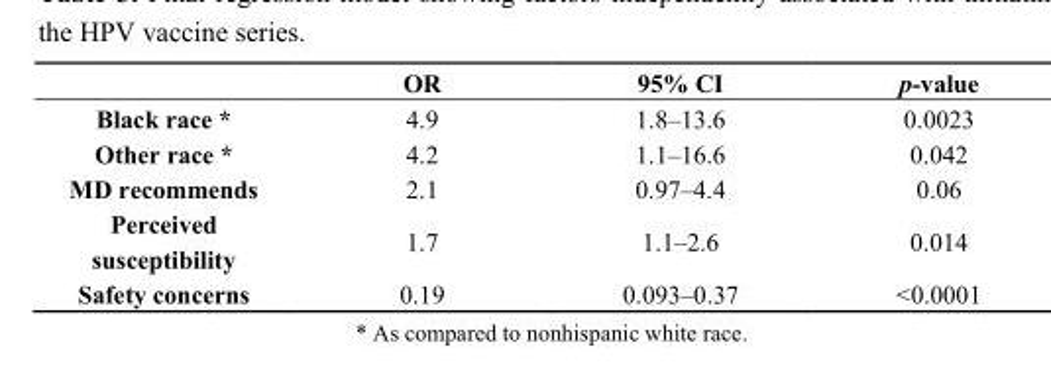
<table><thead><tr><td></td><td>OR</td><td>95% CI</td><td>p-value</td></tr></thead><tbody><tr><td>Black race *</td><td>4.9</td><td>1.8–13.6</td><td>0.0023</td></tr><tr><td>Other race *</td><td>4.2</td><td>1.1–16.6</td><td>0.042</td></tr><tr><td>MD recommends</td><td>2.1</td><td>0.97–4.4</td><td>0.06</td></tr><tr><td>Perceived susceptibility</td><td>1.7</td><td>1.1–2.6</td><td>0.014</td></tr><tr><td>Safety concerns</td><td>0.19</td><td>0.093–0.37</td><td>&lt;0.0001</td></tr></tbody></table>